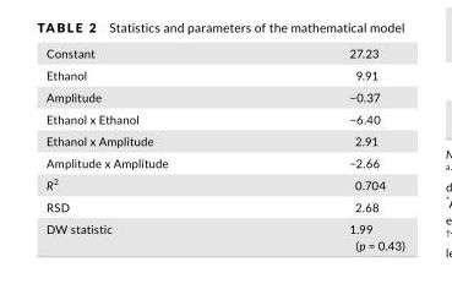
<table><tbody><tr><td>Constant</td><td>27.23</td></tr><tr><td>Ethanol</td><td>9.91</td></tr><tr><td>Amplitude</td><td>−0.37</td></tr><tr><td>Ethanol x Ethanol</td><td>−6.40</td></tr><tr><td>Ethanol x Amplitude</td><td>2.91</td></tr><tr><td>Amplitude x Amplitude</td><td>−2.66</td></tr><tr><td>R<sup>2</sup></td><td>0.704</td></tr><tr><td>RSD</td><td>2.68</td></tr><tr><td>DW statistic</td><td>1.99 (p = 0.43)</td></tr></tbody></table>